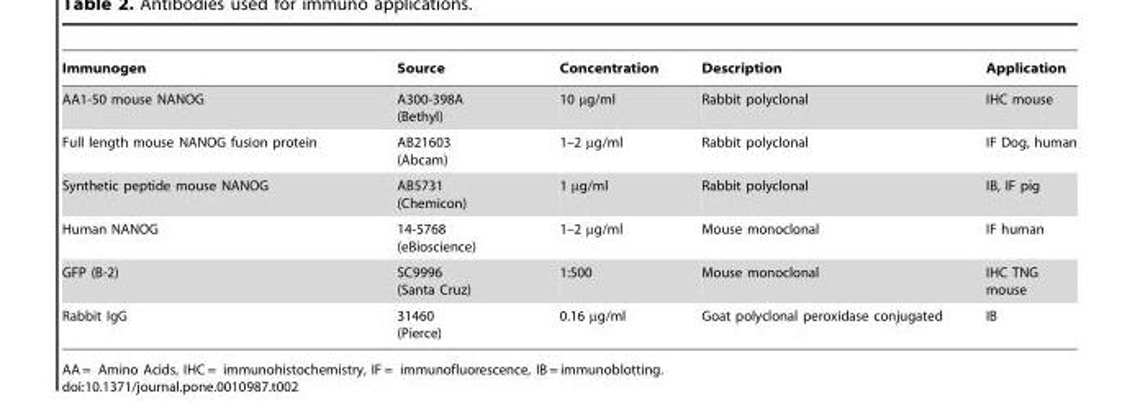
<table><thead><tr><td>Immunogen</td><td>Source</td><td>Concentration</td><td>Description</td><td>Application</td></tr></thead><tbody><tr><td>AA1-50 mouse NANOG</td><td>A300-398A (Bethyl)</td><td>10 µg/ml</td><td>Rabbit polyclonal</td><td>IHC mouse</td></tr><tr><td>Full length mouse NANOG fusion protein</td><td>AB21603 (Abcam)</td><td>1–2 µg/ml</td><td>Rabbit polyclonal</td><td>IF Dog, human</td></tr><tr><td>Synthetic peptide mouse NANOG</td><td>AB5731 (Chemicon)</td><td>1 µg/ml</td><td>Rabbit polyclonal</td><td>IB, IF pig</td></tr><tr><td>Human NANOG</td><td>14-5768 (eBioscience)</td><td>1–2 µg/ml</td><td>Mouse monoclonal</td><td>IF human</td></tr><tr><td>GFP (B-2)</td><td>SC9996 (Santa Cruz)</td><td>1:500</td><td>Mouse monoclonal</td><td>IHC TNG mouse</td></tr><tr><td>Rabbit IgG</td><td>31460 (Pierce)</td><td>0.16 µg/ml</td><td>Goat polyclonal peroxidase conjugated</td><td>IB</td></tr></tbody></table>